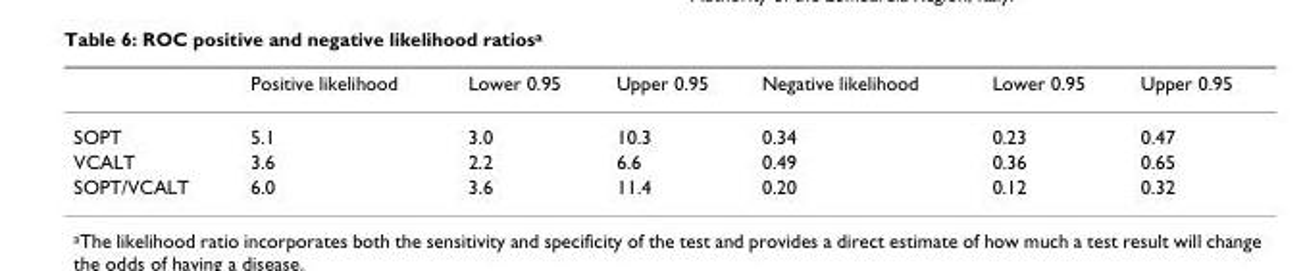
<table><thead><tr><td></td><td>Positive likelihood</td><td>Lower 0.95</td><td>Upper 0.95</td><td>Negative likelihood</td><td>Lower 0.95</td><td>Upper 0.95</td></tr></thead><tbody><tr><td>SOPT</td><td>5.1</td><td>3.0</td><td>10.3</td><td>0.34</td><td>0.23</td><td>0.47</td></tr><tr><td>VCALT</td><td>3.6</td><td>2.2</td><td>6.6</td><td>0.49</td><td>0.36</td><td>0.65</td></tr><tr><td>SOPT/VCALT</td><td>6.0</td><td>3.6</td><td>11.4</td><td>0.20</td><td>0.12</td><td>0.32</td></tr></tbody></table>